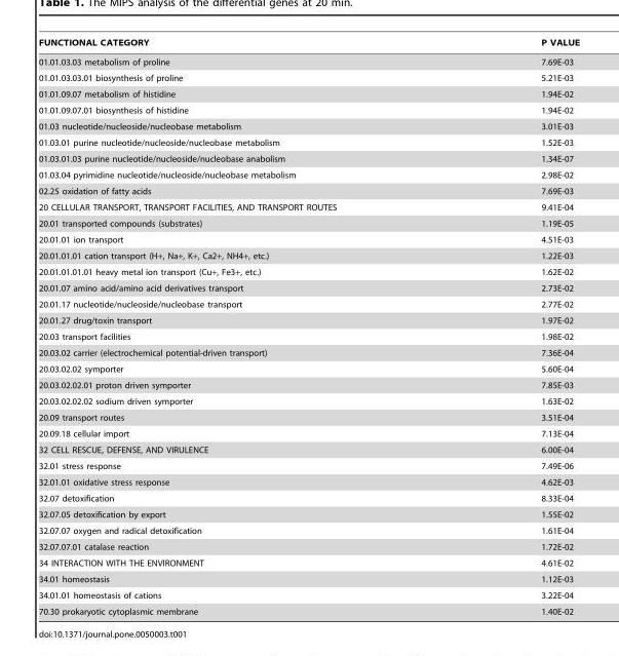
<table><thead><tr><td>FUNCTIONAL CATEGORY</td><td>P VALUE</td></tr></thead><tbody><tr><td>01.01.03.03 metabolism of proline</td><td>7.69E-03</td></tr><tr><td>01.01.03.03.01 biosynthesis of proline</td><td>5.21E-03</td></tr><tr><td>01.01.09.07 metabolism of histidine</td><td>1.94E-02</td></tr><tr><td>01.01.09.07.01 biosynthesis of histidine</td><td>1.94E-02</td></tr><tr><td>01.03 nucleotide/nucleoside/nucleobase metabolism</td><td>3.01E-03</td></tr><tr><td>01.03.01 purine nucleotide/nucleoside/nucleobase metabolism</td><td>1.52E-03</td></tr><tr><td>01.03.01.03 purine nucleotide/nucleoside/nucleobase anabolism</td><td>1.34E-07</td></tr><tr><td>01.03.04 pyrimidine nucleotide/nucleoside/nucleobase metabolism</td><td>2.98E-02</td></tr><tr><td>02.25 oxidation of fatty acids</td><td>7.69E-03</td></tr><tr><td>20 CELLULAR TRANSPORT, TRANSPORT FACILITIES, AND TRANSPORT ROUTES</td><td>9.41E-04</td></tr><tr><td>20.01 transported compounds (substrates)</td><td>1.19E-05</td></tr><tr><td>20.01.01 ion transport</td><td>4.51E-03</td></tr><tr><td>20.01.01.01 cation transport (H+, Na+, K+, Ca2+, NH4+, etc.)</td><td>1.22E-03</td></tr><tr><td>20.01.01.01.01 heavy metal ion transport (Cu+, Fe3+, etc.)</td><td>1.62E-02</td></tr><tr><td>20.01.07 amino acid/amino acid derivatives transport</td><td>2.73E-02</td></tr><tr><td>20.01.17 nucleotide/nucleoside/nucleobase transport</td><td>2.77E-02</td></tr><tr><td>20.01.27 drug/toxin transport</td><td>1.97E-02</td></tr><tr><td>20.03 transport facilities</td><td>1.98E-02</td></tr><tr><td>20.03.02 carrier (electrochemical potential-driven transport)</td><td>7.36E-04</td></tr><tr><td>20.03.02.02 symporter</td><td>5.60E-04</td></tr><tr><td>20.03.02.02.01 proton driven symporter</td><td>7.85E-03</td></tr><tr><td>20.03.02.02.02 sodium driven symporter</td><td>1.63E-02</td></tr><tr><td>20.09 transport routes</td><td>3.51E-04</td></tr><tr><td>20.09.18 cellular import</td><td>7.13E-04</td></tr><tr><td>32 CELL RESCUE, DEFENSE, AND VIRULENCE</td><td>6.00E-04</td></tr><tr><td>32.01 stress response</td><td>7.49E-06</td></tr><tr><td>32.01.01 oxidative stress response</td><td>4.62E-03</td></tr><tr><td>32.07 detoxification</td><td>8.33E-04</td></tr><tr><td>32.07.05 detoxification by export</td><td>1.55E-02</td></tr><tr><td>32.07.07 oxygen and radical detoxification</td><td>1.61E-04</td></tr><tr><td>32.07.07.01 catalase reaction</td><td>1.72E-02</td></tr><tr><td>34 INTERACTION WITH THE ENVIRONMENT</td><td>4.61E-02</td></tr><tr><td>34.01 homeostasis</td><td>1.12E-03</td></tr><tr><td>34.01.01 homeostasis of cations</td><td>3.22E-04</td></tr><tr><td>70.30 prokaryotic cytoplasmic membrane</td><td>1.40E-02</td></tr></tbody></table>